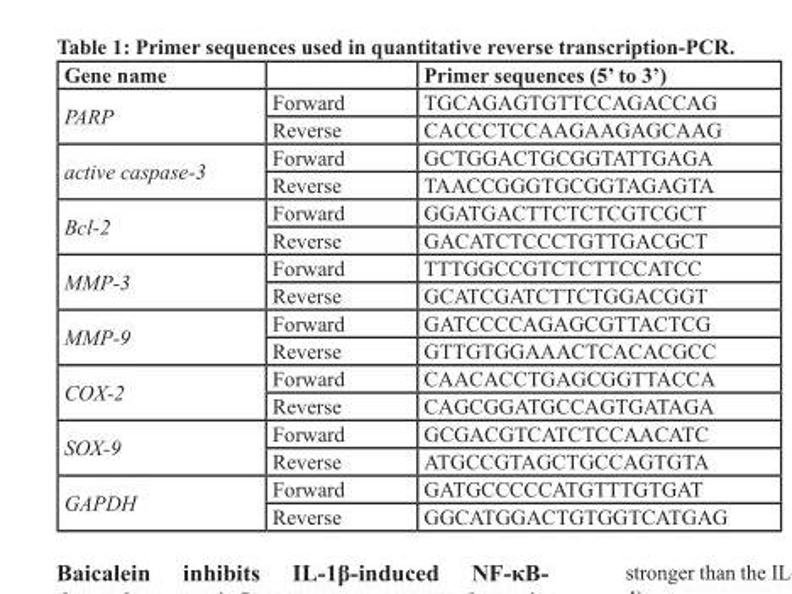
<table><thead><tr><td>Gene name</td><td></td><td>Primer sequences (5’ to 3’)</td></tr></thead><tbody><tr><td rowspan="2">PARP</td><td>Forward</td><td>TGCAGAGTGTTCCAGACCAG</td></tr><tr><td>Reverse</td><td>CACCCTCCAAGAAGAGCAAG</td></tr><tr><td rowspan="2">active caspase-3</td><td>Forward</td><td>GCTGGACTGCGGTATTGAGA</td></tr><tr><td>Reverse</td><td>TAACCGGGTGCGGTAGAGTA</td></tr><tr><td rowspan="2">Bcl-2</td><td>Forward</td><td>GGATGACTTCTCTCGTCGCT</td></tr><tr><td>Reverse</td><td>GACATCTCCCTGTTGACGCT</td></tr><tr><td rowspan="2">MMP-3</td><td>Forward</td><td>TTTGGCCGTCTCTTCCATCC</td></tr><tr><td>Reverse</td><td>GCATCGATCTTCTGGACGGT</td></tr><tr><td rowspan="2">MMP-9</td><td>Forward</td><td>GATCCCCAGAGCGTTACTCG</td></tr><tr><td>Reverse</td><td>GTTGTGGAAACTCACACGCC</td></tr><tr><td rowspan="2">COX-2</td><td>Forward</td><td>CAACACCTGAGCGGTTACCA</td></tr><tr><td>Reverse</td><td>CAGCGGATGCCAGTGATAGA</td></tr><tr><td rowspan="2">SOX-9</td><td>Forward</td><td>GCGACGTCATCTCCAACATC</td></tr><tr><td>Reverse</td><td>ATGCCGTAGCTGCCAGTGTA</td></tr><tr><td rowspan="2">GAPDH</td><td>Forward</td><td>GATGCCCCCATGTTTGTGAT</td></tr><tr><td>Reverse</td><td>GGCATGGACTGTGGTCATGAG</td></tr></tbody></table>